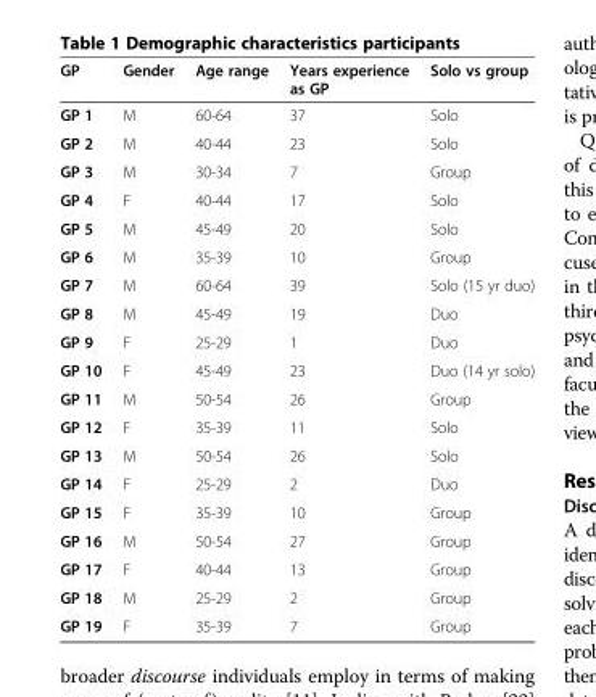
<table><thead><tr><td>GP</td><td>Gender</td><td>Age range</td><td>Years experience as GP</td><td>Solo vs group</td></tr></thead><tbody><tr><td>GP 1</td><td>M</td><td>60-64</td><td>37</td><td>Solo</td></tr><tr><td>GP 2</td><td>M</td><td>40-44</td><td>23</td><td>Solo</td></tr><tr><td>GP 3</td><td>M</td><td>30-34</td><td>7</td><td>Group</td></tr><tr><td>GP 4</td><td>F</td><td>40-44</td><td>17</td><td>Solo</td></tr><tr><td>GP 5</td><td>M</td><td>45-49</td><td>20</td><td>Solo</td></tr><tr><td>GP 6</td><td>M</td><td>35-39</td><td>10</td><td>Group</td></tr><tr><td>GP 7</td><td>M</td><td>60-64</td><td>39</td><td>Solo (15 yr duo)</td></tr><tr><td>GP 8</td><td>M</td><td>45-49</td><td>19</td><td>Duo</td></tr><tr><td>GP 9</td><td>F</td><td>25-29</td><td>1</td><td>Duo</td></tr><tr><td>GP 10</td><td>F</td><td>45-49</td><td>23</td><td>Duo (14 yr solo)</td></tr><tr><td>GP 11</td><td>M</td><td>50-54</td><td>26</td><td>Group</td></tr><tr><td>GP 12</td><td>F</td><td>35-39</td><td>11</td><td>Solo</td></tr><tr><td>GP 13</td><td>M</td><td>50-54</td><td>26</td><td>Solo</td></tr><tr><td>GP 14</td><td>F</td><td>25-29</td><td>2</td><td>Duo</td></tr><tr><td>GP 15</td><td>F</td><td>35-39</td><td>10</td><td>Group</td></tr><tr><td>GP 16</td><td>M</td><td>50-54</td><td>27</td><td>Group</td></tr><tr><td>GP 17</td><td>F</td><td>40-44</td><td>13</td><td>Group</td></tr><tr><td>GP 18</td><td>M</td><td>25-29</td><td>2</td><td>Group</td></tr><tr><td>GP 19</td><td>F</td><td>35-39</td><td>7</td><td>Group</td></tr></tbody></table>